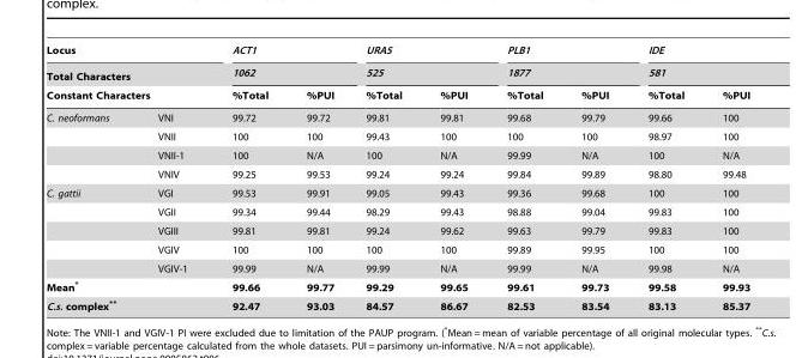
<table><thead><tr><td rowspan="3" colspan="2">Locus Total Characters Constant Characters</td><td rowspan="2" colspan="2">ACT1 1062</td><td rowspan="2" colspan="2">URA5 525</td><td rowspan="2" colspan="2">PLB1 1877</td><td rowspan="2" colspan="2">IDE 581</td></tr><tr></tr><tr><td rowspan="2">%Total 99.72</td><td rowspan="2">%PUI 99.72</td><td rowspan="2">%Total 99.81</td><td rowspan="2">%PUI 99.81</td><td rowspan="2">%Total 99.68</td><td rowspan="2">%PUI 99.79</td><td rowspan="2">%Total 99.66</td><td rowspan="2">%PUI 100</td></tr><tr><td>C. neoformans</td><td>VNI</td></tr></thead><tbody><tr><td></td><td>VNII</td><td>100</td><td>100</td><td>99.43</td><td>100</td><td>100</td><td>100</td><td>98.97</td><td>100</td></tr><tr><td></td><td>VNII-1</td><td>100</td><td>N/A</td><td>100</td><td>N/A</td><td>99.99</td><td>N/A</td><td>100</td><td>N/A</td></tr><tr><td></td><td>VNIV</td><td>99.25</td><td>99.53</td><td>99.24</td><td>99.24</td><td>99.84</td><td>99.89</td><td>98.80</td><td>99.48</td></tr><tr><td rowspan="5">C. gattii</td><td>VGI</td><td>99.53</td><td>99.91</td><td>99.05</td><td>99.43</td><td>99.36</td><td>99.68</td><td>100</td><td>100</td></tr><tr><td>VGII</td><td>99.34</td><td>99.44</td><td>98.29</td><td>99.43</td><td>98.88</td><td>99.04</td><td>99.83</td><td>100</td></tr><tr><td>VGIII</td><td>99.81</td><td>99.81</td><td>99.24</td><td>99.62</td><td>99.63</td><td>99.79</td><td>99.83</td><td>100</td></tr><tr><td>VGIV</td><td>100</td><td>100</td><td>100</td><td>100</td><td>99.89</td><td>99.95</td><td>100</td><td>100</td></tr><tr><td>VGIV-1</td><td>99.99</td><td>N/A</td><td>99.99</td><td>N/A</td><td>99.99</td><td>N/A</td><td>99.98</td><td>N/A</td></tr><tr><td colspan="2">Mean*</td><td>99.66</td><td>99.77</td><td>99.29</td><td>99.65</td><td>99.61</td><td>99.73</td><td>99.58</td><td>99.93</td></tr><tr><td colspan="2">C.s. complex**</td><td>92.47</td><td>93.03</td><td>84.57</td><td>86.67</td><td>82.53</td><td>83.54</td><td>83.13</td><td>85.37</td></tr></tbody></table>